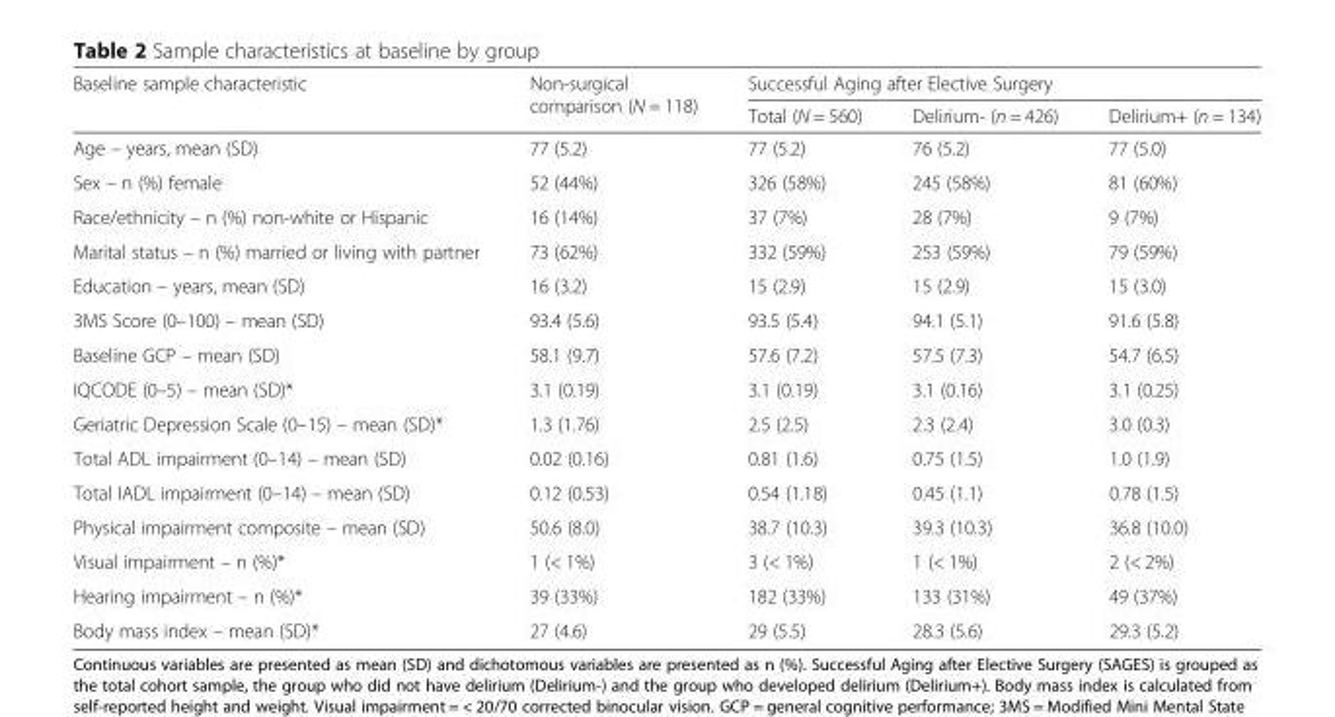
<table><thead><tr><td rowspan="2">Baseline sample characteristic</td><td rowspan="2">Non-surgical comparison (N = 118)</td><td colspan="3">Successful Aging after Elective Surgery</td></tr><tr><td>Total (N = 560)</td><td>Delirium- (n = 426)</td><td>Delirium+ (n = 134)</td></tr></thead><tbody><tr><td>Age – years, mean (SD)</td><td>77 (5.2)</td><td>77 (5.2)</td><td>76 (5.2)</td><td>77 (5.0)</td></tr><tr><td>Sex – n (%) female</td><td>52 (44%)</td><td>326 (58%)</td><td>245 (58%)</td><td>81 (60%)</td></tr><tr><td>Race/ethnicity – n (%) non-white or Hispanic</td><td>16 (14%)</td><td>37 (7%)</td><td>28 (7%)</td><td>9 (7%)</td></tr><tr><td>Marital status – n (%) married or living with partner</td><td>73 (62%)</td><td>332 (59%)</td><td>253 (59%)</td><td>79 (59%)</td></tr><tr><td>Education – years, mean (SD)</td><td>16 (3.2)</td><td>15 (2.9)</td><td>15 (2.9)</td><td>15 (3.0)</td></tr><tr><td>3MS Score (0–100) – mean (SD)</td><td>93.4 (5.6)</td><td>93.5 (5.4)</td><td>94.1 (5.1)</td><td>91.6 (5.8)</td></tr><tr><td>Baseline GCP – mean (SD)</td><td>58.1 (9.7)</td><td>57.6 (7.2)</td><td>57.5 (7.3)</td><td>54.7 (6.5)</td></tr><tr><td>IQCODE (0–5) – mean (SD)*</td><td>3.1 (0.19)</td><td>3.1 (0.19)</td><td>3.1 (0.16)</td><td>3.1 (0.25)</td></tr><tr><td>Geriatric Depression Scale (0–15) – mean (SD)*</td><td>1.3 (1.76)</td><td>2.5 (2.5)</td><td>2.3 (2.4)</td><td>3.0 (0.3)</td></tr><tr><td>Total ADL impairment (0–14) – mean (SD)</td><td>0.02 (0.16)</td><td>0.81 (1.6)</td><td>0.75 (1.5)</td><td>1.0 (1.9)</td></tr><tr><td>Total IADL impairment (0–14) – mean (SD)</td><td>0.12 (0.53)</td><td>0.54 (1.18)</td><td>0.45 (1.1)</td><td>0.78 (1.5)</td></tr><tr><td>Physical impairment composite – mean (SD)</td><td>50.6 (8.0)</td><td>38.7 (10.3)</td><td>39.3 (10.3)</td><td>36.8 (10.0)</td></tr><tr><td>Visual impairment – n (%)*</td><td>1 (&lt; 1%)</td><td>3 (&lt; 1%)</td><td>1 (&lt; 1%)</td><td>2 (&lt; 2%)</td></tr><tr><td>Hearing impairment – n (%)*</td><td>39 (33%)</td><td>182 (33%)</td><td>133 (31%)</td><td>49 (37%)</td></tr><tr><td>Body mass index – mean (SD)*</td><td>27 (4.6)</td><td>29 (5.5)</td><td>28.3 (5.6)</td><td>29.3 (5.2)</td></tr></tbody></table>